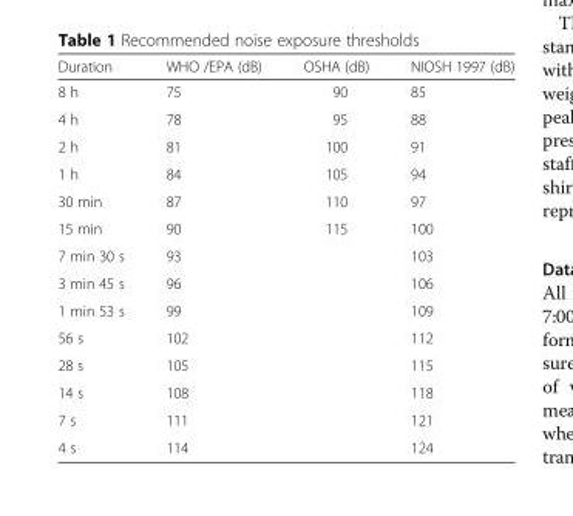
<table><thead><tr><td>Duration</td><td>WHO /EPA (dB)</td><td>OSHA (dB)</td><td>NIOSH 1997 (dB)</td></tr></thead><tbody><tr><td>8 h</td><td>75</td><td>90</td><td>85</td></tr><tr><td>4 h</td><td>78</td><td>95</td><td>88</td></tr><tr><td>2 h</td><td>81</td><td>100</td><td>91</td></tr><tr><td>1 h</td><td>84</td><td>105</td><td>94</td></tr><tr><td>30 min</td><td>87</td><td>110</td><td>97</td></tr><tr><td>15 min</td><td>90</td><td>115</td><td>100</td></tr><tr><td>7 min 30 s</td><td>93</td><td></td><td>103</td></tr><tr><td>3 min 45 s</td><td>96</td><td></td><td>106</td></tr><tr><td>1 min 53 s</td><td>99</td><td></td><td>109</td></tr><tr><td>56 s</td><td>102</td><td></td><td>112</td></tr><tr><td>28 s</td><td>105</td><td></td><td>115</td></tr><tr><td>14 s</td><td>108</td><td></td><td>118</td></tr><tr><td>7 s</td><td>111</td><td></td><td>121</td></tr><tr><td>4 s</td><td>114</td><td></td><td>124</td></tr></tbody></table>